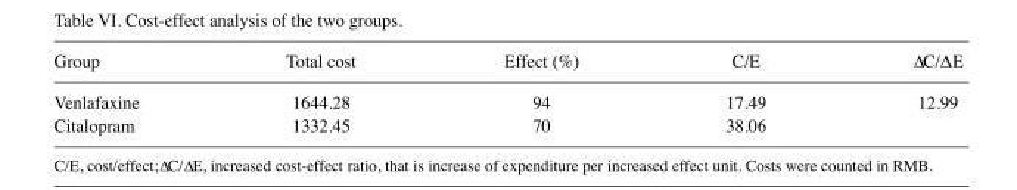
<table><thead><tr><td>Group</td><td>Total cost</td><td>Effect (%)</td><td>C/E</td><td>∆C/ΔE</td></tr></thead><tbody><tr><td>Venlafaxine</td><td>1644.28</td><td>94</td><td>17.49</td><td>12.99</td></tr><tr><td>Citalopram</td><td>1332.45</td><td>70</td><td>38.06</td><td></td></tr></tbody></table>